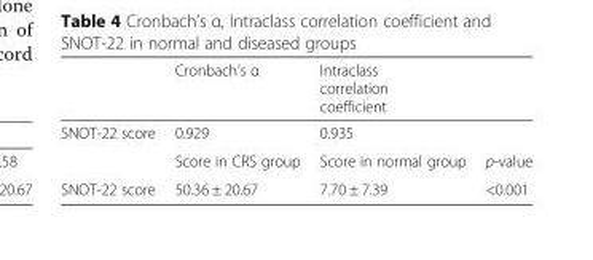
<table><thead><tr><td></td><td>Cronbach’s α</td><td>Intraclass correlation coefficient</td><td></td></tr></thead><tbody><tr><td rowspan="2">SNOT-22 score</td><td>0.929</td><td>0.935</td><td></td></tr><tr><td>Score in CRS group</td><td>Score in normal group</td><td>p-value</td></tr><tr><td>SNOT-22 score</td><td>50.36 ± 20.67</td><td>7.70 ± 7.39</td><td>&lt;0.001</td></tr></tbody></table>